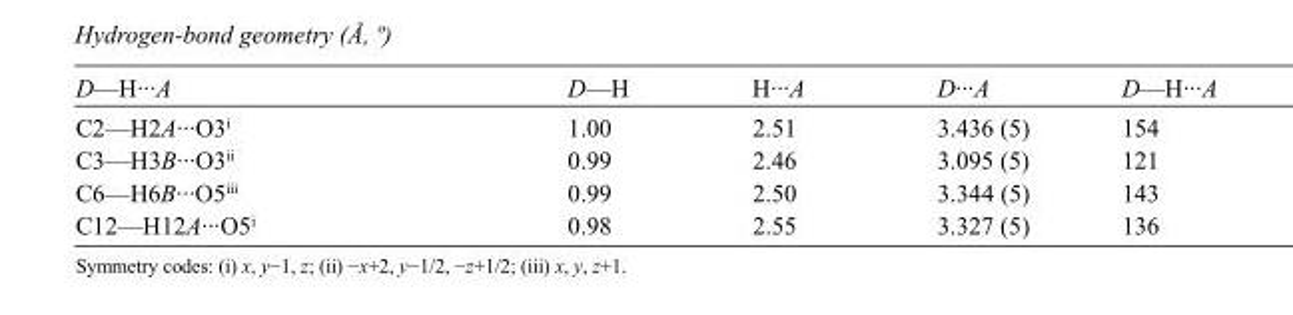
<table><tbody><tr><td>D—H···A</td><td>D—H</td><td>H···A</td><td>D···A</td><td>D—H···A</td></tr><tr><td>C2—H2A···O3<sup>i</sup></td><td>1.00</td><td>2.51</td><td>3.436 (5)</td><td>154</td></tr><tr><td>C3—H3B···O3<sup>ii</sup></td><td>0.99</td><td>2.46</td><td>3.095 (5)</td><td>121</td></tr><tr><td>C6—H6B···O5<sup>iii</sup></td><td>0.99</td><td>2.50</td><td>3.344 (5)</td><td>143</td></tr><tr><td>C12—H12A···O5<sup>i</sup></td><td>0.98</td><td>2.55</td><td>3.327 (5)</td><td>136</td></tr></tbody></table>